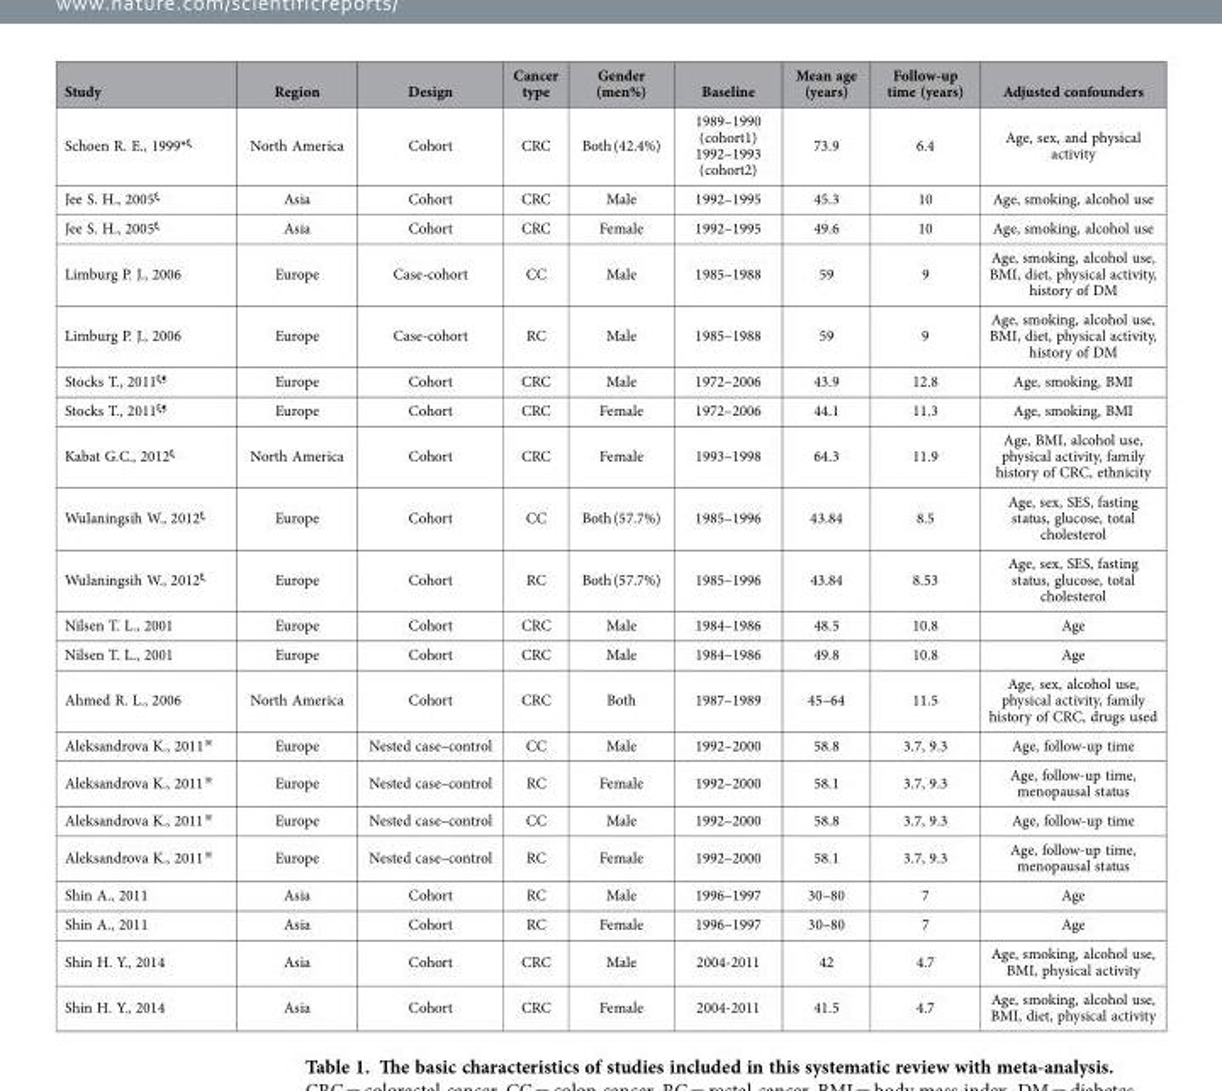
<table><thead><tr><td>Study</td><td>Region</td><td>Design</td><td>Cancer type</td><td>Gender (men%)</td><td>Baseline</td><td>Mean age (years)</td><td>Follow-up time (years)</td><td>Adjusted confounders</td></tr></thead><tbody><tr><td>Schoen R. E., 1999*<sup>ξ</sup></td><td>North America</td><td>Cohort</td><td>CRC</td><td>Both (42.4%)</td><td>1989–1990 (cohort1) 1992–1993 (cohort2)</td><td>73.9</td><td>6.4</td><td>Age, sex, and physical activity</td></tr><tr><td>Jee S. H., 2005<sup>ξ</sup></td><td>Asia</td><td>Cohort</td><td>CRC</td><td>Male</td><td>1992–1995</td><td>45.3</td><td>10</td><td>Age, smoking, alcohol use</td></tr><tr><td>Jee S. H., 2005<sup>ξ</sup></td><td>Asia</td><td>Cohort</td><td>CRC</td><td>Female</td><td>1992–1995</td><td>49.6</td><td>10</td><td>Age, smoking, alcohol use</td></tr><tr><td>Limburg P. J., 2006</td><td>Europe</td><td>Case-cohort</td><td>CC</td><td>Male</td><td>1985–1988</td><td>59</td><td>9</td><td>Age, smoking, alcohol use, BMI, diet, physical activity, history of DM</td></tr><tr><td>Limburg P. J., 2006</td><td>Europe</td><td>Case-cohort</td><td>RC</td><td>Male</td><td>1985–1988</td><td>59</td><td>9</td><td>Age, smoking, alcohol use, BMI, diet, physical activity, history of DM</td></tr><tr><td>Stocks T., 2011ξ<sup>¶</sup></td><td>Europe</td><td>Cohort</td><td>CRC</td><td>Male</td><td>1972–2006</td><td>43.9</td><td>12.8</td><td>Age, smoking, BMI</td></tr><tr><td>Stocks T., 2011ξ<sup>¶</sup></td><td>Europe</td><td>Cohort</td><td>CRC</td><td>Female</td><td>1972–2006</td><td>44.1</td><td>11.3</td><td>Age, smoking, BMI</td></tr><tr><td>Kabat G.C., 2012<sup>ξ</sup></td><td>North America</td><td>Cohort</td><td>CRC</td><td>Female</td><td>1993–1998</td><td>64.3</td><td>11.9</td><td>Age, BMI, alcohol use, physical activity, family history of CRC, ethnicity</td></tr><tr><td>Wulaningsih W., 2012<sup>ξ</sup></td><td>Europe</td><td>Cohort</td><td>CC</td><td>Both (57.7%)</td><td>1985–1996</td><td>43.84</td><td>8.5</td><td>Age, sex, SES, fasting status, glucose, total cholesterol</td></tr><tr><td>Wulaningsih W., 2012<sup>ξ</sup></td><td>Europe</td><td>Cohort</td><td>RC</td><td>Both (57.7%)</td><td>1985–1996</td><td>43.84</td><td>8.53</td><td>Age, sex, SES, fasting status, glucose, total cholesterol</td></tr><tr><td>Nilsen T. L., 2001</td><td>Europe</td><td>Cohort</td><td>CRC</td><td>Male</td><td>1984–1986</td><td>48.5</td><td>10.8</td><td>Age</td></tr><tr><td>Nilsen T. L., 2001</td><td>Europe</td><td>Cohort</td><td>CRC</td><td>Male</td><td>1984–1986</td><td>49.8</td><td>10.8</td><td>Age</td></tr><tr><td>Ahmed R. L., 2006</td><td>North America</td><td>Cohort</td><td>CRC</td><td>Both</td><td>1987–1989</td><td>45–64</td><td>11.5</td><td>Age, sex, alcohol use, physical activity, family history of CRC, drugs used</td></tr><tr><td>Aleksandrova K., 2011※</td><td>Europe</td><td>Nested case–control</td><td>CC</td><td>Male</td><td>1992–2000</td><td>58.8</td><td>3.7, 9.3</td><td>Age, follow-up time</td></tr><tr><td>Aleksandrova K., 2011※</td><td>Europe</td><td>Nested case–control</td><td>RC</td><td>Female</td><td>1992–2000</td><td>58.1</td><td>3.7, 9.3</td><td>Age, follow-up time, menopausal status</td></tr><tr><td>Aleksandrova K., 2011※</td><td>Europe</td><td>Nested case–control</td><td>CC</td><td>Male</td><td>1992–2000</td><td>58.8</td><td>3.7, 9.3</td><td>Age, follow-up time</td></tr><tr><td>Aleksandrova K., 2011※</td><td>Europe</td><td>Nested case–control</td><td>RC</td><td>Female</td><td>1992–2000</td><td>58.1</td><td>3.7, 9.3</td><td>Age, follow-up time, menopausal status</td></tr><tr><td>Shin A., 2011</td><td>Asia</td><td>Cohort</td><td>RC</td><td>Male</td><td>1996–1997</td><td>30–80</td><td>7</td><td>Age</td></tr><tr><td>Shin A., 2011</td><td>Asia</td><td>Cohort</td><td>RC</td><td>Female</td><td>1996–1997</td><td>30–80</td><td>7</td><td>Age</td></tr><tr><td>Shin H. Y., 2014</td><td>Asia</td><td>Cohort</td><td>CRC</td><td>Male</td><td>2004-2011</td><td>42</td><td>4.7</td><td>Age, smoking, alcohol use, BMI, physical activity</td></tr><tr><td>Shin H. Y., 2014</td><td>Asia</td><td>Cohort</td><td>CRC</td><td>Female</td><td>2004-2011</td><td>41.5</td><td>4.7</td><td>Age, smoking, alcohol use, BMI, diet, physical activity</td></tr></tbody></table>